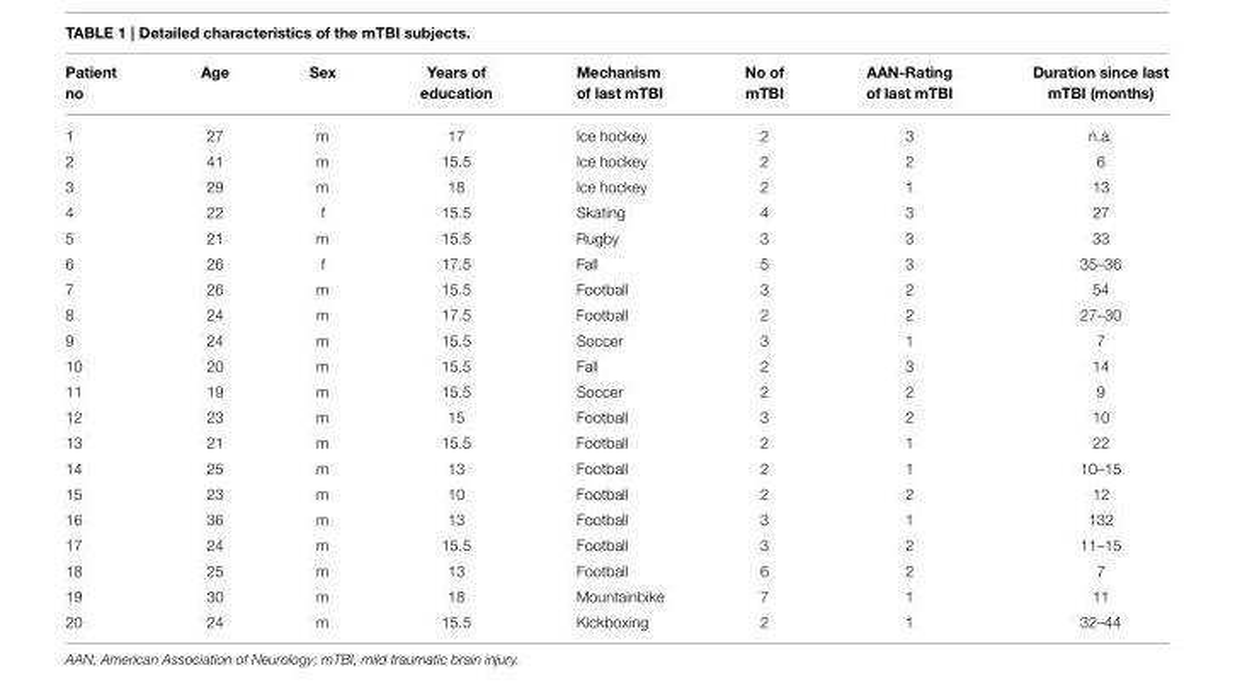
<table><thead><tr><td>Patient no</td><td>Age</td><td>Sex</td><td>Years of education</td><td>Mechanism of last mTBI</td><td>No of mTBI</td><td>AAN-Rating of last mTBI</td><td>Duration since last mTBI (months)</td></tr></thead><tbody><tr><td>1</td><td>27</td><td>m</td><td>17</td><td>Ice hockey</td><td>2</td><td>3</td><td>n.a.</td></tr><tr><td>2</td><td>41</td><td>m</td><td>15.5</td><td>Ice hockey</td><td>2</td><td>2</td><td>6</td></tr><tr><td>3</td><td>29</td><td>m</td><td>18</td><td>Ice hockey</td><td>2</td><td>1</td><td>13</td></tr><tr><td>4</td><td>22</td><td>f</td><td>15.5</td><td>Skating</td><td>4</td><td>3</td><td>27</td></tr><tr><td>5</td><td>21</td><td>m</td><td>15.5</td><td>Rugby</td><td>3</td><td>3</td><td>33</td></tr><tr><td>6</td><td>26</td><td>f</td><td>17.5</td><td>Fall</td><td>5</td><td>3</td><td>35–36</td></tr><tr><td>7</td><td>26</td><td>m</td><td>15.5</td><td>Football</td><td>3</td><td>2</td><td>54</td></tr><tr><td>8</td><td>24</td><td>m</td><td>17.5</td><td>Football</td><td>2</td><td>2</td><td>27–30</td></tr><tr><td>9</td><td>24</td><td>m</td><td>15.5</td><td>Soccer</td><td>3</td><td>1</td><td>7</td></tr><tr><td>10</td><td>20</td><td>m</td><td>15.5</td><td>Fall</td><td>2</td><td>3</td><td>14</td></tr><tr><td>11</td><td>19</td><td>m</td><td>15.5</td><td>Soccer</td><td>2</td><td>2</td><td>9</td></tr><tr><td>12</td><td>23</td><td>m</td><td>15</td><td>Football</td><td>3</td><td>2</td><td>10</td></tr><tr><td>13</td><td>21</td><td>m</td><td>15.5</td><td>Football</td><td>2</td><td>1</td><td>22</td></tr><tr><td>14</td><td>25</td><td>m</td><td>13</td><td>Football</td><td>2</td><td>1</td><td>10–15</td></tr><tr><td>15</td><td>23</td><td>m</td><td>10</td><td>Football</td><td>2</td><td>2</td><td>12</td></tr><tr><td>16</td><td>36</td><td>m</td><td>13</td><td>Football</td><td>3</td><td>1</td><td>132</td></tr><tr><td>17</td><td>24</td><td>m</td><td>15.5</td><td>Football</td><td>3</td><td>2</td><td>11–15</td></tr><tr><td>18</td><td>25</td><td>m</td><td>13</td><td>Football</td><td>6</td><td>2</td><td>7</td></tr><tr><td>19</td><td>30</td><td>m</td><td>18</td><td>Mountainbike</td><td>7</td><td>1</td><td>11</td></tr><tr><td>20</td><td>24</td><td>m</td><td>15.5</td><td>Kickboxing</td><td>2</td><td>1</td><td>32–44</td></tr></tbody></table>